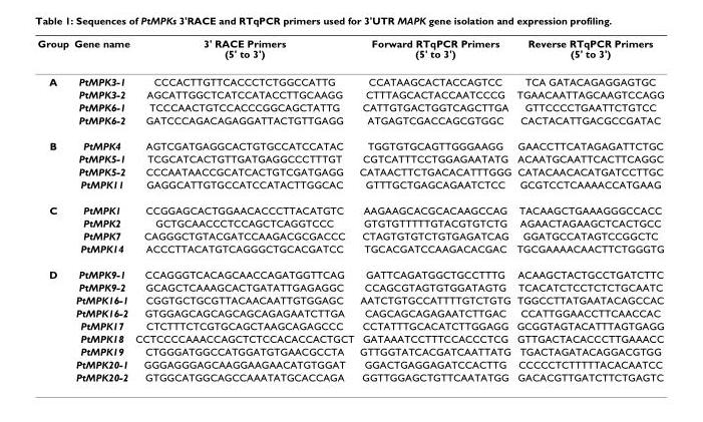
<table><thead><tr><td>Group</td><td>Gene name</td><td>3&#x27; RACE Primers (5&#x27; to 3&#x27;)</td><td>Forward RTqPCR Primers (5&#x27; to 3&#x27;)</td><td>Reverse RTqPCR Primers (5&#x27; to 3&#x27;)</td></tr></thead><tbody><tr><td rowspan="4">A</td><td>PtMPK3-1</td><td>CCCACTTGTTCACCCTCTGGCCATTG</td><td>CCATAAGCACTACCAGTCC</td><td>TCA GATACAGAGGAGTGC</td></tr><tr><td>PtMPK3-2</td><td>AGCATTGGCTCATCCATACCTTGCAAGG</td><td>CTTTAGCACTACCAATCCCG</td><td>TGAACAATTAGCAAGTCCAGG</td></tr><tr><td>PtMPK6-1</td><td>TCCCAACTGTCCACCCGGCAGCTATTG</td><td>CATTGTGACTGGTCAGCTTGA</td><td>GTTCCCCTGAATTCTGTCC</td></tr><tr><td>PtMPK6-2</td><td>GATCCCAGACAGAGGATTACTGTTGAGG</td><td>ATGAGTCGACCAGCGTGGC</td><td>CACTACATTGACGCCGATAC</td></tr><tr><td rowspan="4">B</td><td>PtMPK4</td><td>AGTCGATGAGGCACTGTGCCATCCATAC</td><td>TGGTGTGCAGTTGGGAAGG</td><td>GAACCTTCATAGAGATTCTGC</td></tr><tr><td>PtMPK5-1</td><td>TCGCATCACTGTTGATGAGGCCCTTTGT</td><td>CGTCATTTCCTGGAGAATATG</td><td>ACAATGCAATTCACTTCAGGC</td></tr><tr><td>PtMPK5-2</td><td>CCCAATAACCGCATCACTGTCGATGAGG</td><td>CATAACTTCTGACACATTTGGG</td><td>CATACAACACATGATCCTTGC</td></tr><tr><td>PtMPK11</td><td>GAGGCATTGTGCCATCCATACTTGGCAC</td><td>GTTTGCTGAGCAGAATCTCC</td><td>GCGTCCTCAAAACCATGAAG</td></tr><tr><td rowspan="4">C</td><td>PtMPK1</td><td>CCGGAGCACTGGAACACCCTTACATGTC</td><td>AAGAAGCACGCACAAGCCAG</td><td>TACAAGCTGAAAGGGCCACC</td></tr><tr><td>PtMPK2</td><td>GCTGCAACCCTCCAGCTCAGGTCCC</td><td>GTGTGTTTTTGTACGTGTCTG</td><td>AGAACTAGAAGCTCACTGCC</td></tr><tr><td>PtMPK7</td><td>CAGGGCTGTACGATCCAAGACGCGACCC</td><td>CTAGTGTGTCTGTGAGATCAG</td><td>GGATGCCATAGTCCGGCTC</td></tr><tr><td>PtMPK14</td><td>ACCCTTACATGTCAGGGCTGCACGATCC</td><td>TGCACGATCCAAGACACGAC</td><td>TGCGAAAACAACTTCTGGGTG</td></tr><tr><td rowspan="9">D</td><td>PtMPK9-1</td><td>CCAGGGTCACAGCAACCAGATGGTTCAG</td><td>GATTCAGATGGCTGCCTTTG</td><td>ACAAGCTACTGCCTGATCTTC</td></tr><tr><td>PtMPK9-2</td><td>GCAGCTCAAAGCACTGATATTGAGAGGC</td><td>CCAGCGTAGTGTGGATAGTG</td><td>TCACATCTCCTCTCTGCAATC</td></tr><tr><td>PtMPK16-1</td><td>CGGTGCTGCGTTACAACAATTGTGGAGC</td><td>AATCTGTGCCATTTTGTCTGTG</td><td>TGGCCTTATGAATACAGCCAC</td></tr><tr><td>PtMPK16-2</td><td>GTGGAGCAGCAGCAGCAGAGAATCTTGA</td><td>CAGCAGCAGAGAATCTTGAC</td><td>CCATTGGAACCTTCAACCAC</td></tr><tr><td>PtMPK17</td><td>CTCTTTCTCGTGCAGCTAAGCAGAGCCC</td><td>CCTATTTGCACATCTTGGAGG</td><td>GCGGTAGTACATTTAGTGAGG</td></tr><tr><td>PtMPK18</td><td>CCTCCCCAAACCAGCTCTCCACACCACTGCT</td><td>GATAAATCCTTTCCACCCTCG</td><td>GTTGACTACACCCTTGAAACC</td></tr><tr><td>PtMPK19</td><td>CTGGGATGGCCATGGATGTGAACGCCTA</td><td>GTTGGTATCACGATCAATTATG</td><td>TGACTAGATACAGGACGTGG</td></tr><tr><td>PtMPK20-1</td><td>GGGAGGGAGCAAGGAAGAACATGTGGAT</td><td>GGACTGAGGAGATCCACTTG</td><td>CCCCCTCTTTTTACACAATCC</td></tr><tr><td>PtMPK20-2</td><td>GTGGCATGGCAGCCAAATATGCACCAGA</td><td>GGTTGGAGCTGTTCAATATGG</td><td>GACACGTTGATCTTCTGAGTC</td></tr></tbody></table>